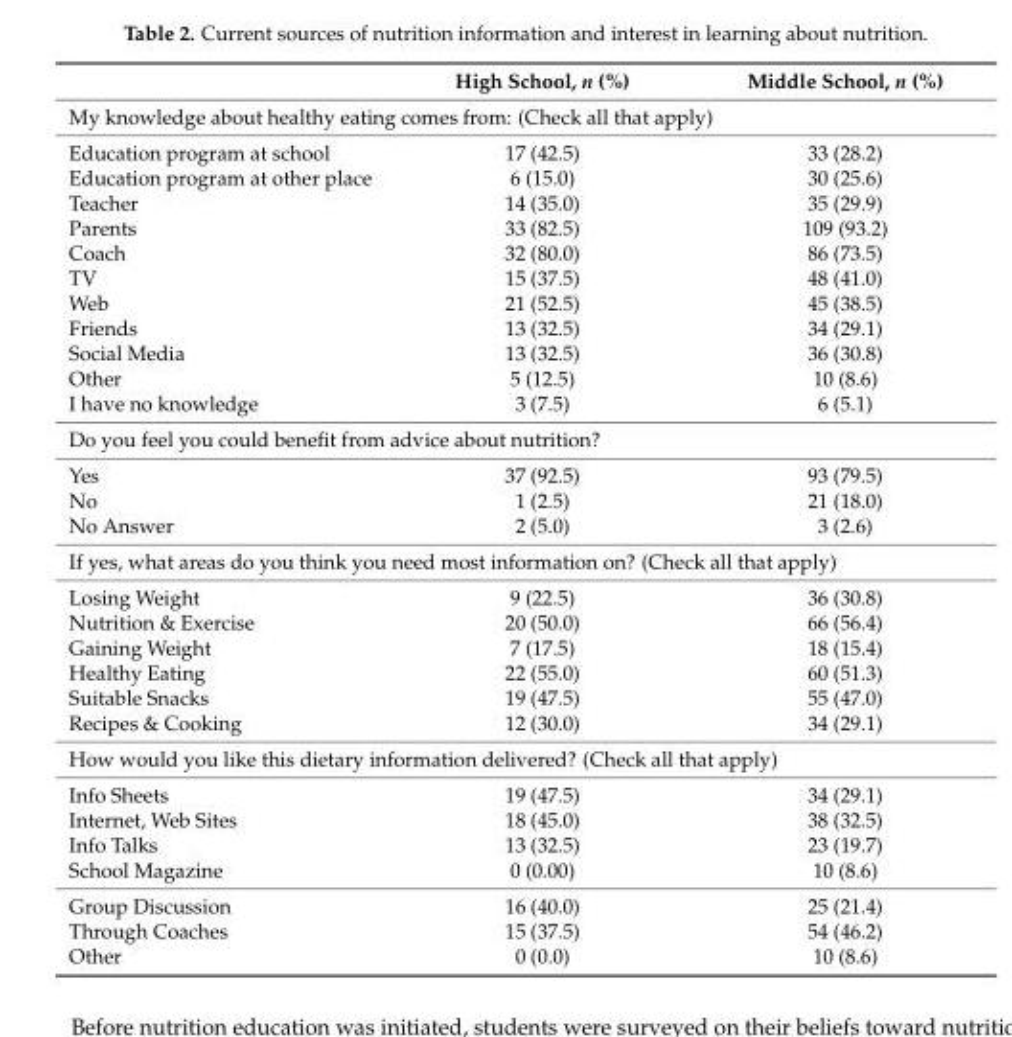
<table><thead><tr><td></td><td>High School, n (%)</td><td>Middle School, n (%)</td></tr></thead><tbody><tr><td colspan="3">My knowledge about healthy eating comes from: (Check all that apply)</td></tr><tr><td>Education program at school</td><td>17 (42.5)</td><td>33 (28.2)</td></tr><tr><td>Education program at other place</td><td>6 (15.0)</td><td>30 (25.6)</td></tr><tr><td>Teacher</td><td>14 (35.0)</td><td>35 (29.9)</td></tr><tr><td>Parents</td><td>33 (82.5)</td><td>109 (93.2)</td></tr><tr><td>Coach</td><td>32 (80.0)</td><td>86 (73.5)</td></tr><tr><td>TV</td><td>15 (37.5)</td><td>48 (41.0)</td></tr><tr><td>Web</td><td>21 (52.5)</td><td>45 (38.5)</td></tr><tr><td>Friends</td><td>13 (32.5)</td><td>34 (29.1)</td></tr><tr><td>Social Media</td><td>13 (32.5)</td><td>36 (30.8)</td></tr><tr><td>Other</td><td>5 (12.5)</td><td>10 (8.6)</td></tr><tr><td>I have no knowledge</td><td>3 (7.5)</td><td>6 (5.1)</td></tr><tr><td colspan="3">Do you feel you could benefit from advice about nutrition?</td></tr><tr><td>Yes</td><td>37 (92.5)</td><td>93 (79.5)</td></tr><tr><td>No</td><td>1 (2.5)</td><td>21 (18.0)</td></tr><tr><td>No Answer</td><td>2 (5.0)</td><td>3 (2.6)</td></tr><tr><td colspan="3">If yes, what areas do you think you need most information on? (Check all that apply)</td></tr><tr><td>Losing Weight</td><td>9 (22.5)</td><td>36 (30.8)</td></tr><tr><td>Nutrition &amp; Exercise</td><td>20 (50.0)</td><td>66 (56.4)</td></tr><tr><td>Gaining Weight</td><td>7 (17.5)</td><td>18 (15.4)</td></tr><tr><td>Healthy Eating</td><td>22 (55.0)</td><td>60 (51.3)</td></tr><tr><td>Suitable Snacks</td><td>19 (47.5)</td><td>55 (47.0)</td></tr><tr><td>Recipes &amp; Cooking</td><td>12 (30.0)</td><td>34 (29.1)</td></tr><tr><td colspan="3">How would you like this dietary information delivered? (Check all that apply)</td></tr><tr><td>Info Sheets</td><td>19 (47.5)</td><td>34 (29.1)</td></tr><tr><td>Internet, Web Sites</td><td>18 (45.0)</td><td>38 (32.5)</td></tr><tr><td>Info Talks</td><td>13 (32.5)</td><td>23 (19.7)</td></tr><tr><td>School Magazine</td><td>0 (0.00)</td><td>10 (8.6)</td></tr><tr><td>Group Discussion</td><td>16 (40.0)</td><td>25 (21.4)</td></tr><tr><td>Through Coaches</td><td>15 (37.5)</td><td>54 (46.2)</td></tr><tr><td>Other</td><td>0 (0.0)</td><td>10 (8.6)</td></tr></tbody></table>